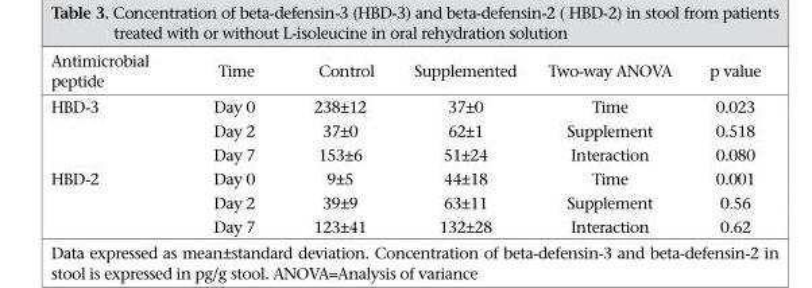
<table><thead><tr><td>Antimicrobial peptide</td><td>Time</td><td>Control</td><td>Supplemented</td><td>Two-way ANOVA</td><td>p value</td></tr></thead><tbody><tr><td rowspan="3">HBD-3</td><td>Day 0</td><td>238±12</td><td>37±0</td><td>Time</td><td>0.023</td></tr><tr><td>Day 2</td><td>37±0</td><td>62±1</td><td>Supplement</td><td>0.518</td></tr><tr><td>Day 7</td><td>153±6</td><td>51±24</td><td>Interaction</td><td>0.080</td></tr><tr><td rowspan="3">HBD-2</td><td>Day 0</td><td>9±5</td><td>44±18</td><td>Time</td><td>0.001</td></tr><tr><td>Day 2</td><td>39±9</td><td>63±11</td><td>Supplement</td><td>0.56</td></tr><tr><td>Day 7</td><td>123±41</td><td>132±28</td><td>Interaction</td><td>0.62</td></tr></tbody></table>